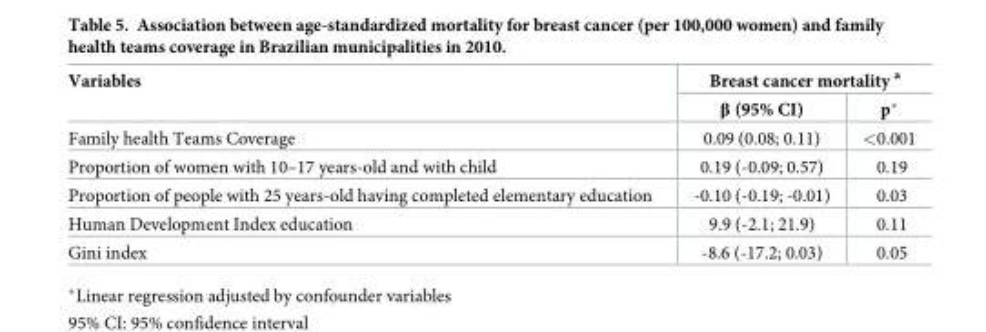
<table><thead><tr><td rowspan="2">Variables</td><td colspan="2">Breast cancer mortality <sup>a</sup></td></tr><tr><td>β (95% CI)</td><td>p*</td></tr></thead><tbody><tr><td>Family health Teams Coverage</td><td>0.09 (0.08; 0.11)</td><td>&lt;0.001</td></tr><tr><td>Proportion of women with 10–17 years-old and with child</td><td>0.19 (-0.09; 0.57)</td><td>0.19</td></tr><tr><td>Proportion of people with 25 years-old having completed elementary education</td><td>-0.10 (-0.19; -0.01)</td><td>0.03</td></tr><tr><td>Human Development Index education</td><td>9.9 (-2.1; 21.9)</td><td>0.11</td></tr><tr><td>Gini index</td><td>-8.6 (-17.2; 0.03)</td><td>0.05</td></tr></tbody></table>